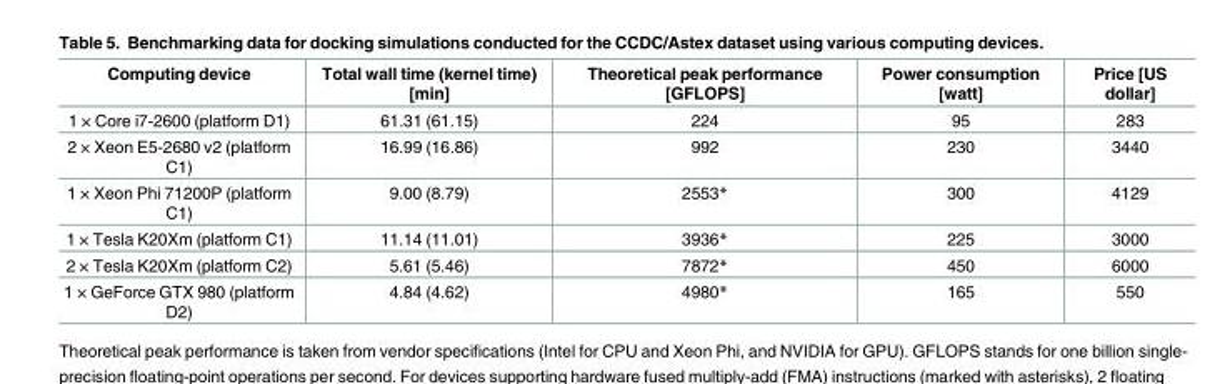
<table><thead><tr><td>Computing device</td><td>Total wall time (kernel time) [min]</td><td>Theoretical peak performance [GFLOPS]</td><td>Power consumption [watt]</td><td>Price [US dollar]</td></tr></thead><tbody><tr><td>1 × Core i7-2600 (platform D1)</td><td>61.31 (61.15)</td><td>224</td><td>95</td><td>283</td></tr><tr><td>2 × Xeon E5-2680 v2 (platform C1)</td><td>16.99 (16.86)</td><td>992</td><td>230</td><td>3440</td></tr><tr><td>1 × Xeon Phi 71200P (platform C1)</td><td>9.00 (8.79)</td><td>2553*</td><td>300</td><td>4129</td></tr><tr><td>1 × Tesla K20Xm (platform C1)</td><td>11.14 (11.01)</td><td>3936*</td><td>225</td><td>3000</td></tr><tr><td>2 × Tesla K20Xm (platform C2)</td><td>5.61 (5.46)</td><td>7872*</td><td>450</td><td>6000</td></tr><tr><td>1 × GeForce GTX 980 (platform D2)</td><td>4.84 (4.62)</td><td>4980*</td><td>165</td><td>550</td></tr></tbody></table>